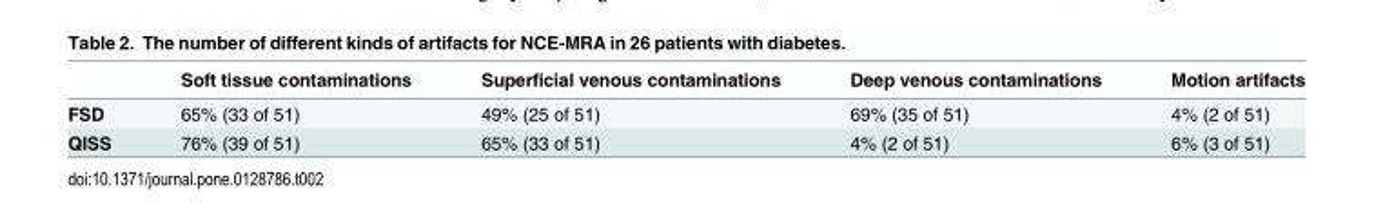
<table><thead><tr><td></td><td>Soft tissue contaminations</td><td>Superficial venous contaminations</td><td>Deep venous contaminations</td><td>Motion artifacts</td></tr></thead><tbody><tr><td>FSD</td><td>65% (33 of 51)</td><td>49% (25 of 51)</td><td>69% (35 of 51)</td><td>4% (2 of 51)</td></tr><tr><td>QISS</td><td>76% (39 of 51)</td><td>65% (33 of 51)</td><td>4% (2 of 51)</td><td>6% (3 of 51)</td></tr></tbody></table>